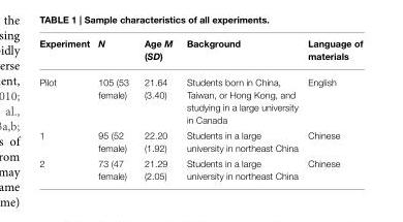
<table><thead><tr><td>Experiment</td><td>N</td><td>Age M (SD)</td><td>Background</td><td>Language of materials</td></tr></thead><tbody><tr><td>Pilot</td><td>105 (53 female)</td><td>21.64 (3.40)</td><td>Students born in China, Taiwan, or Hong Kong, and studying in a large university in Canada</td><td>English</td></tr><tr><td>1</td><td>95 (52 female)</td><td>22.20 (1.92)</td><td>Students in a large university in northeast China</td><td>Chinese</td></tr><tr><td>2</td><td>73 (47 female)</td><td>21.29 (2.05)</td><td>Students in a large university in northeast China</td><td>Chinese</td></tr></tbody></table>